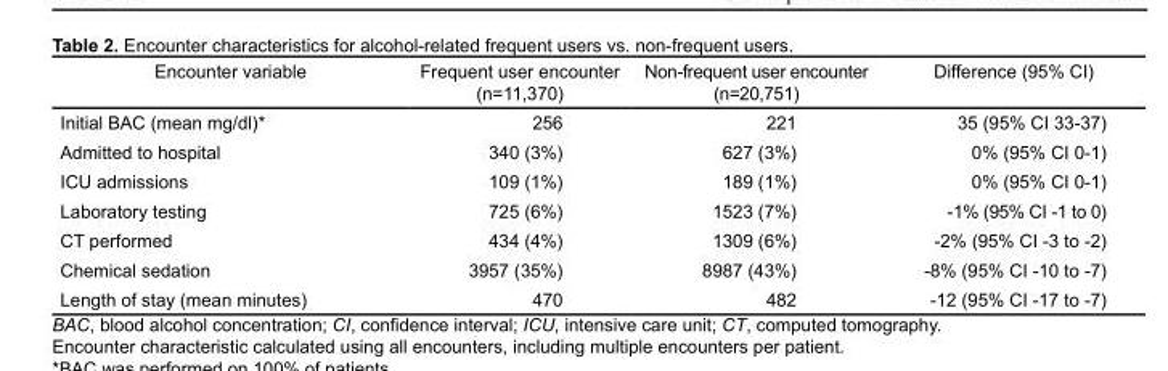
<table><thead><tr><td>Encounter variable</td><td>Frequent user encounter (n=11,370)</td><td>Non-frequent user encounter (n=20,751)</td><td>Difference (95% CI)</td></tr></thead><tbody><tr><td>Initial BAC (mean mg/dl)*</td><td>256</td><td>221</td><td>35 (95% CI 33-37)</td></tr><tr><td>Admitted to hospital</td><td>340 (3%)</td><td>627 (3%)</td><td>0% (95% CI 0-1)</td></tr><tr><td>ICU admissions</td><td>109 (1%)</td><td>189 (1%)</td><td>0% (95% CI 0-1)</td></tr><tr><td>Laboratory testing</td><td>725 (6%)</td><td>1523 (7%)</td><td>-1% (95% CI -1 to 0)</td></tr><tr><td>CT performed</td><td>434 (4%)</td><td>1309 (6%)</td><td>-2% (95% CI -3 to -2)</td></tr><tr><td>Chemical sedation</td><td>3957 (35%)</td><td>8987 (43%)</td><td>-8% (95% CI -10 to -7)</td></tr><tr><td>Length of stay (mean minutes)</td><td>470</td><td>482</td><td>-12 (95% CI -17 to -7)</td></tr></tbody></table>